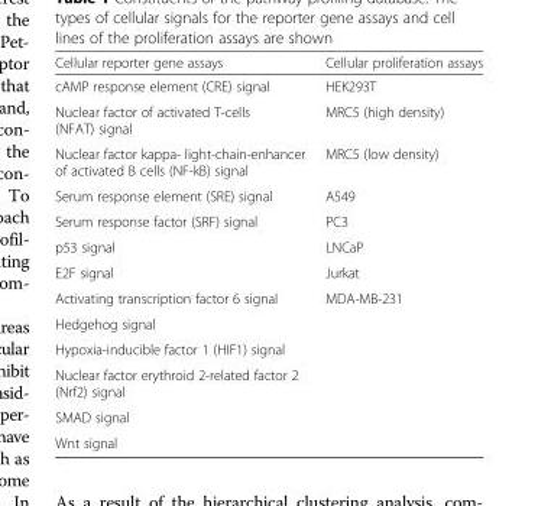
<table><thead><tr><td>Cellular reporter gene assays</td><td>Cellular proliferation assays</td></tr></thead><tbody><tr><td>cAMP response element (CRE) signal</td><td>HEK293T</td></tr><tr><td>Nuclear factor of activated T-cells (NFAT) signal</td><td>MRC5 (high density)</td></tr><tr><td>Nuclear factor kappa- light-chain-enhancer of activated B cells (NF-kB) signal</td><td>MRC5 (low density)</td></tr><tr><td>Serum response element (SRE) signal</td><td>A549</td></tr><tr><td>Serum response factor (SRF) signal</td><td>PC3</td></tr><tr><td>p53 signal</td><td>LNCaP</td></tr><tr><td>E2F signal</td><td>Jurkat</td></tr><tr><td>Activating transcription factor 6 signal</td><td>MDA-MB-231</td></tr><tr><td colspan="2">Hedgehog signal</td></tr><tr><td colspan="2">Hypoxia-inducible factor 1 (HIF1) signal</td></tr><tr><td colspan="2">Nuclear factor erythroid 2-related factor 2 (Nrf2) signal</td></tr><tr><td colspan="2">SMAD signal</td></tr><tr><td>Wnt signal</td><td></td></tr></tbody></table>